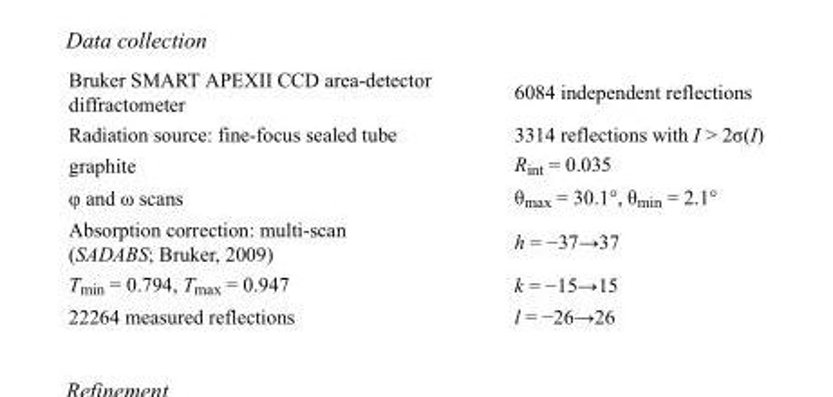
<table><tbody><tr><td>Bruker SMART APEXII CCD area-detector diffractometer</td><td>6084 independent reflections</td></tr><tr><td>Radiation source: fine-focus sealed tube</td><td>3314 reflections with I &gt; 2σ(I)</td></tr><tr><td>graphite</td><td>R<sub>int</sub> = 0.035</td></tr><tr><td>φ and ω scans</td><td>θ<sub>max</sub> = 30.1°, θ<sub>min</sub> = 2.1°</td></tr><tr><td>Absorption correction: multi-scan (SADABS; Bruker, 2009)</td><td>h = −37→37</td></tr><tr><td>T<sub>min</sub> = 0.794, T<sub>max</sub> = 0.947</td><td>k = −15→15</td></tr><tr><td>22264 measured reflections</td><td>l = −26→26</td></tr></tbody></table>